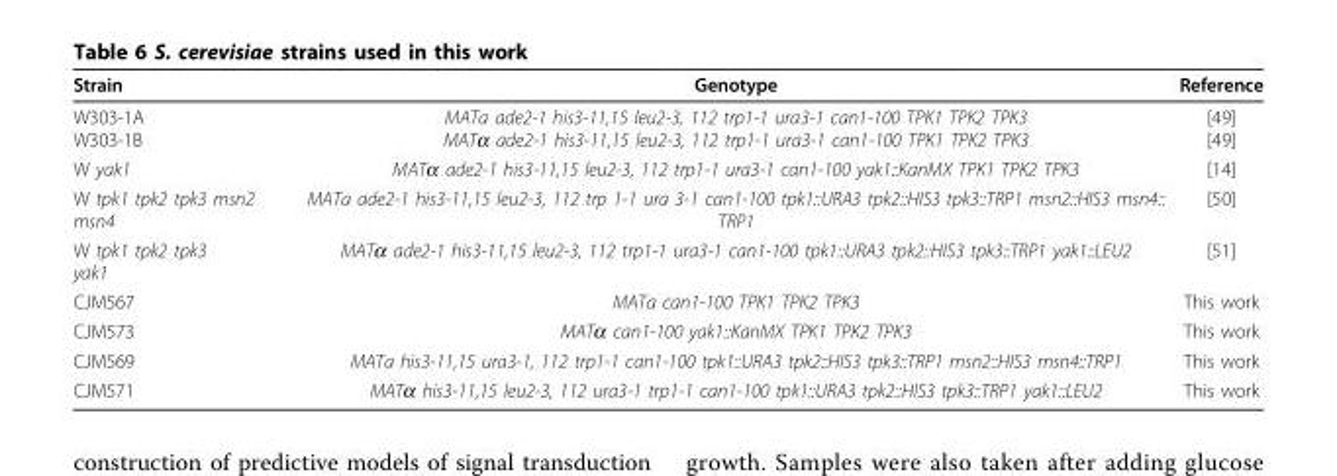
<table><thead><tr><td>Strain</td><td>Genotype</td><td>Reference</td></tr></thead><tbody><tr><td>W303-1A W303-1B</td><td>MATa ade2-1 his3-11,15 leu2-3, 112 trp1-1 ura3-1 can1-100 TPK1 TPK2 TPK3 MATα ade2-1 his3-11,15 leu2-3, 112 trp1-1 ura3-1 can1-100 TPK1 TPK2 TPK3</td><td>[49] [49]</td></tr><tr><td>W yak1</td><td>MATα ade2-1 his3-11,15 leu2-3, 112 trp1-1 ura3-1 can1-100 yak1::KanMX TPK1 TPK2 TPK3</td><td>[14]</td></tr><tr><td>W tpk1 tpk2 tpk3 msn2 msn4</td><td>MATa ade2-1 his3-11,15 leu2-3, 112 trp 1-1 ura 3-1 can1-100 tpk1::URA3 tpk2::HIS3 tpk3::TRP1 msn2::HIS3 msn4:: TRP1</td><td>[50]</td></tr><tr><td>W tpk1 tpk2 tpk3 yak1</td><td>MATα ade2-1 his3-11,15 leu2-3, 112 trp1-1 ura3-1 can1-100 tpk1::URA3 tpk2::HIS3 tpk3::TRP1 yak1::LEU2</td><td>[51]</td></tr><tr><td>CJM567</td><td>MATa can1-100 TPK1 TPK2 TPK3</td><td>This work</td></tr><tr><td>CJM573</td><td>MATα can1-100 yak1::KanMX TPK1 TPK2 TPK3</td><td>This work</td></tr><tr><td>CJM569</td><td>MATa his3-11,15 ura3-1, 112 trp1-1 can1-100 tpk1::URA3 tpk2::HIS3 tpk3::TRP1 msn2::HIS3 msn4::TRP1</td><td>This work</td></tr><tr><td>CJM571</td><td>MATα his3-11,15 leu2-3, 112 ura3-1 trp1-1 can1-100 tpk1::URA3 tpk2::HIS3 tpk3::TRP1 yak1::LEU2</td><td>This work</td></tr></tbody></table>